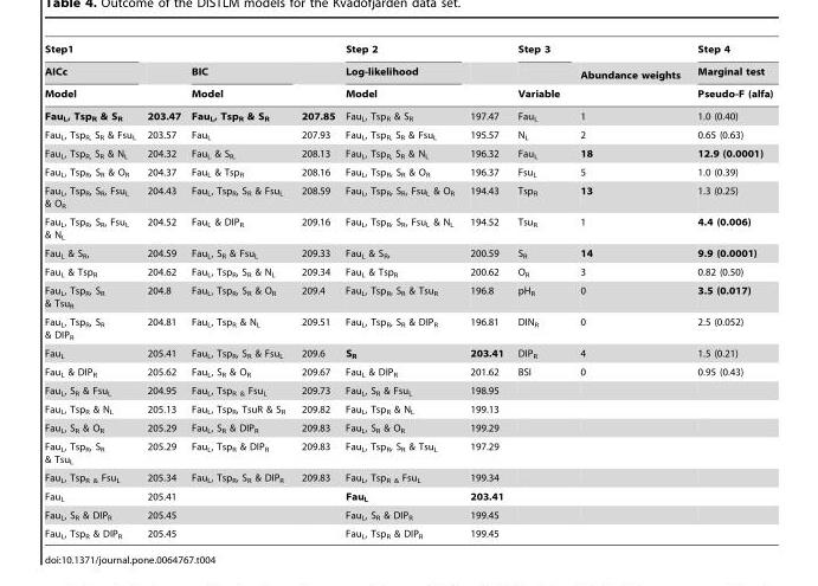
<table><thead><tr><td rowspan="3">Step1 AICc Model</td><td rowspan="3"></td><td rowspan="3">BIC Model</td><td rowspan="3"></td><td rowspan="3">Step 2 Log-likelihood Model</td><td rowspan="3"></td><td rowspan="3">Step 3 Variable</td><td rowspan="3">Abundance weights</td><td rowspan="3">Step 4 Marginal test Pseudo-F (alfa)</td></tr><tr></tr><tr></tr></thead><tbody><tr><td>FauL, TspR &amp; SR</td><td>203.47</td><td>Fau<sub>L</sub>, Tsp<sub>R</sub> &amp; S<sub>R</sub></td><td>207.85</td><td>Fau<sub>L</sub>, Tsp<sub>R</sub> &amp; S<sub>R</sub></td><td>197.47</td><td>Fau<sub>L</sub></td><td>1</td><td>1.0 (0.40)</td></tr><tr><td>Fau<sub>L</sub>, Tsp<sub>R,</sub> S<sub>R</sub> &amp; Fsu<sub>L</sub></td><td>203.57</td><td>Fau<sub>L</sub></td><td>207.93</td><td>Fau<sub>L</sub>, Tsp<sub>R,</sub> S<sub>R</sub> &amp; Fsu<sub>L</sub></td><td>195.57</td><td>N<sub>L</sub></td><td>2</td><td>0.65 (0.63)</td></tr><tr><td>Fau<sub>L</sub>, Tsp<sub>R,</sub> S<sub>R</sub> &amp; N<sub>L</sub></td><td>204.32</td><td>Fau<sub>L</sub> &amp; S<sub>R,</sub></td><td>208.13</td><td>Fau<sub>L</sub>, Tsp<sub>R,</sub> S<sub>R</sub> &amp; N<sub>L</sub></td><td>196.32</td><td>Fau<sub>L</sub></td><td>18</td><td>12.9 (0.0001)</td></tr><tr><td>Fau<sub>L</sub>, Tsp<sub>R</sub>, S<sub>R</sub> &amp; O<sub>R</sub></td><td>204.37</td><td>Fau<sub>L</sub> &amp; Tsp<sub>R</sub></td><td>208.16</td><td>Fau<sub>L</sub>, Tsp<sub>R</sub>, S<sub>R</sub> &amp; O<sub>R</sub></td><td>196.37</td><td>Fsu<sub>L</sub></td><td>5</td><td>1.0 (0.39)</td></tr><tr><td>Fau<sub>L</sub>, Tsp<sub>R</sub>, S<sub>R</sub>, Fsu<sub>L</sub> &amp; O<sub>R</sub></td><td>204.43</td><td>Fau<sub>L</sub>, Tsp<sub>R</sub>, S<sub>R</sub> &amp; Fsu<sub>L</sub></td><td>208.59</td><td>Fau<sub>L</sub>, Tsp<sub>R</sub>, S<sub>R</sub>, Fsu<sub>L</sub> &amp; O<sub>R</sub></td><td>194.43</td><td>Tsp<sub>R</sub></td><td>13</td><td>1.3 (0.25)</td></tr><tr><td>Fau<sub>L</sub>, Tsp<sub>R</sub>, S<sub>R</sub>, Fsu<sub>L</sub> &amp; N<sub>L</sub></td><td>204.52</td><td>Fau<sub>L</sub> &amp; DIP<sub>R</sub></td><td>209.16</td><td>Fau<sub>L</sub>, Tsp<sub>R</sub>, S<sub>R</sub>, Fsu<sub>L</sub> &amp; N<sub>L</sub></td><td>194.52</td><td>Tsu<sub>R</sub></td><td>1</td><td>4.4 (0.006)</td></tr><tr><td>Fau<sub>L</sub> &amp; S<sub>R</sub>,</td><td>204.59</td><td>Fau<sub>L</sub>, S<sub>R</sub> &amp; Fsu<sub>L</sub></td><td>209.33</td><td>Fau<sub>L</sub> &amp; S<sub>R</sub>,</td><td>200.59</td><td>S<sub>R</sub></td><td>14</td><td>9.9 (0.0001)</td></tr><tr><td>Fau<sub>L</sub> &amp; Tsp<sub>R</sub></td><td>204.62</td><td>Fau<sub>L</sub>, Tsp<sub>R</sub>, S<sub>R</sub> &amp; N<sub>L</sub></td><td>209.34</td><td>Fau<sub>L</sub> &amp; Tsp<sub>R</sub></td><td>200.62</td><td>O<sub>R</sub></td><td>3</td><td>0.82 (0.50)</td></tr><tr><td>Fau<sub>L</sub>, Tsp<sub>R</sub>, S<sub>R</sub> &amp; Tsu<sub>R</sub></td><td>204.8</td><td>Fau<sub>L</sub>, Tsp<sub>R</sub>, S<sub>R</sub> &amp; O<sub>R</sub></td><td>209.4</td><td>Fau<sub>L</sub>, Tsp<sub>R</sub>, S<sub>R</sub> &amp; Tsu<sub>R</sub></td><td>196.8</td><td>pH<sub>R</sub></td><td>0</td><td>3.5 (0.017)</td></tr><tr><td>Fau<sub>L</sub>, Tsp<sub>R</sub>, S<sub>R</sub> &amp; DIP<sub>R</sub></td><td>204.81</td><td>Fau<sub>L</sub>, Tsp<sub>R</sub> &amp; N<sub>L</sub></td><td>209.51</td><td>Fau<sub>L</sub>, Tsp<sub>R</sub>, S<sub>R</sub> &amp; DIP<sub>R</sub></td><td>196.81</td><td>DIN<sub>R</sub></td><td>0</td><td>2.5 (0.052)</td></tr><tr><td>Fau<sub>L</sub></td><td>205.41</td><td>Fau<sub>L</sub>, Tsp<sub>R</sub>, S<sub>R</sub> &amp; Fsu<sub>L</sub></td><td>209.6</td><td>S<sub>R</sub></td><td>203.41</td><td>DIP<sub>R</sub></td><td>4</td><td>1.5 (0.21)</td></tr><tr><td>Fau<sub>L</sub> &amp; DIP<sub>R</sub></td><td>205.62</td><td>Fau<sub>L</sub>, S<sub>R</sub> &amp; O<sub>R</sub></td><td>209.67</td><td>Fau<sub>L</sub> &amp; DIP<sub>R</sub></td><td>201.62</td><td>BSI</td><td>0</td><td>0.95 (0.43)</td></tr><tr><td>Fau<sub>L</sub>, S<sub>R</sub> &amp; Fsu<sub>L</sub></td><td>204.95</td><td>Fau<sub>L</sub>, Tsp<sub>R &amp;</sub> Fsu<sub>L</sub></td><td>209.73</td><td>Fau<sub>L</sub>, S<sub>R</sub> &amp; Fsu<sub>L</sub></td><td>198.95</td><td></td><td></td><td></td></tr><tr><td>Fau<sub>L</sub>, Tsp<sub>R</sub> &amp; N<sub>L</sub></td><td>205.13</td><td>Fau<sub>L</sub>, Tsp<sub>R</sub>, TsuR &amp; S<sub>R</sub></td><td>209.82</td><td>Fau<sub>L</sub>, Tsp<sub>R</sub> &amp; N<sub>L</sub></td><td>199.13</td><td></td><td></td><td></td></tr><tr><td>Fau<sub>L</sub>, S<sub>R</sub> &amp; O<sub>R</sub></td><td>205.29</td><td>Fau<sub>L</sub>, S<sub>R</sub> &amp; DIP<sub>R</sub></td><td>209.83</td><td>Fau<sub>L</sub>, S<sub>R</sub> &amp; O<sub>R</sub></td><td>199.29</td><td></td><td></td><td></td></tr><tr><td>Fau<sub>L</sub>, Tsp<sub>R</sub>, S<sub>R</sub> &amp; Tsu<sub>L</sub></td><td>205.29</td><td>Fau<sub>L</sub>, Tsp<sub>R</sub> &amp; DIP<sub>R</sub></td><td>209.83</td><td>Fau<sub>L</sub>, Tsp<sub>R</sub>, S<sub>R</sub> &amp; Tsu<sub>L</sub></td><td>197.29</td><td></td><td></td><td></td></tr><tr><td>Fau<sub>L</sub>, Tsp<sub>R &amp;</sub> Fsu<sub>L</sub></td><td>205.34</td><td>Fau<sub>L</sub>, Tsp<sub>R</sub>, S<sub>R</sub> &amp; DIP<sub>R</sub></td><td>209.83</td><td>Fau<sub>L</sub>, Tsp<sub>R &amp;</sub> Fsu<sub>L</sub></td><td>199.34</td><td></td><td></td><td></td></tr><tr><td>Fau<sub>L</sub></td><td>205.41</td><td></td><td></td><td>Fau<sub>L</sub></td><td>203.41</td><td></td><td></td><td></td></tr><tr><td>Fau<sub>L</sub>, S<sub>R</sub> &amp; DIP<sub>R</sub></td><td>205.45</td><td></td><td></td><td>Fau<sub>L</sub>, S<sub>R</sub> &amp; DIP<sub>R</sub></td><td>199.45</td><td></td><td></td><td></td></tr><tr><td>Fau<sub>L</sub>, Tsp<sub>R</sub> &amp; DIP<sub>R</sub></td><td>205.45</td><td></td><td></td><td>Fau<sub>L</sub>, Tsp<sub>R</sub> &amp; DIP<sub>R</sub></td><td>199.45</td><td></td><td></td><td></td></tr></tbody></table>